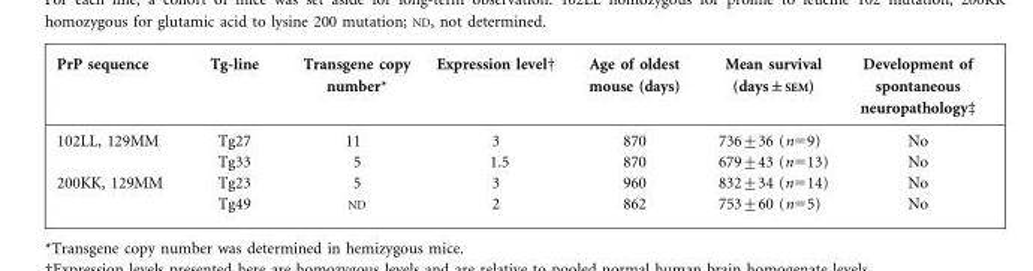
<table><thead><tr><td>PrP sequence</td><td>Tg-line</td><td>Transgene copy number*</td><td>Expression level†</td><td>Age of oldest mouse (days)</td><td>Mean survival (days±SEM)</td><td>Development of spontaneous neuropathology‡</td></tr></thead><tbody><tr><td rowspan="2">102LL, 129MM</td><td>Tg27</td><td>11</td><td>3</td><td>870</td><td>736±36 (n=9)</td><td>No</td></tr><tr><td>Tg33</td><td>5</td><td>1.5</td><td>870</td><td>679±43 (n=13)</td><td>No</td></tr><tr><td rowspan="2">200KK, 129MM</td><td>Tg23</td><td>5</td><td>3</td><td>960</td><td>832±34 (n=14)</td><td>No</td></tr><tr><td>Tg49</td><td>ND</td><td>2</td><td>862</td><td>753±60 (n=5)</td><td>No</td></tr></tbody></table>